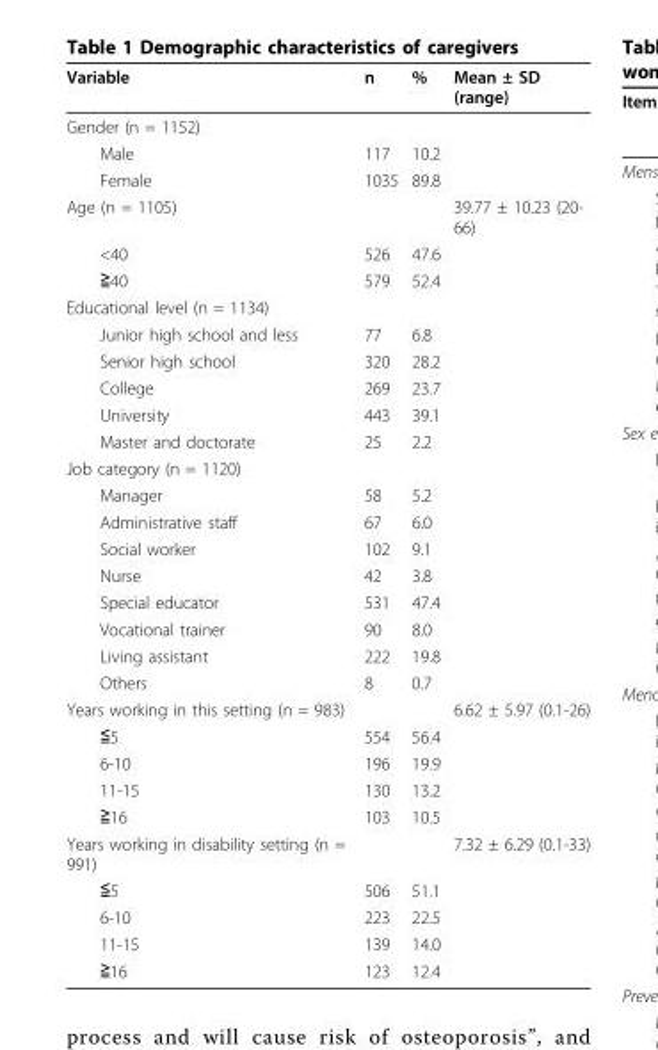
<table><thead><tr><td>Variable</td><td>n</td><td>%</td><td>Mean ± SD (range)</td></tr></thead><tbody><tr><td colspan="4">Gender (n = 1152)</td></tr><tr><td>Male</td><td>117</td><td>10.2</td><td></td></tr><tr><td>Female</td><td>1035</td><td>89.8</td><td></td></tr><tr><td>Age (n = 1105)</td><td></td><td></td><td>39.77 ± 10.23 (20- 66)</td></tr><tr><td>&lt;40</td><td>526</td><td>47.6</td><td></td></tr><tr><td>≧40</td><td>579</td><td>52.4</td><td></td></tr><tr><td colspan="4">Educational level (n = 1134)</td></tr><tr><td>Junior high school and less</td><td>77</td><td>6.8</td><td></td></tr><tr><td>Senior high school</td><td>320</td><td>28.2</td><td></td></tr><tr><td>College</td><td>269</td><td>23.7</td><td></td></tr><tr><td>University</td><td>443</td><td>39.1</td><td></td></tr><tr><td>Master and doctorate</td><td>25</td><td>2.2</td><td></td></tr><tr><td colspan="4">Job category (n = 1120)</td></tr><tr><td>Manager</td><td>58</td><td>5.2</td><td></td></tr><tr><td>Administrative staff</td><td>67</td><td>6.0</td><td></td></tr><tr><td>Social worker</td><td>102</td><td>9.1</td><td></td></tr><tr><td>Nurse</td><td>42</td><td>3.8</td><td></td></tr><tr><td>Special educator</td><td>531</td><td>47.4</td><td></td></tr><tr><td>Vocational trainer</td><td>90</td><td>8.0</td><td></td></tr><tr><td>Living assistant</td><td>222</td><td>19.8</td><td></td></tr><tr><td>Others</td><td>8</td><td>0.7</td><td></td></tr><tr><td>Years working in this setting (n = 983)</td><td></td><td></td><td>6.62 ± 5.97 (0.1-26)</td></tr><tr><td>≦5</td><td>554</td><td>56.4</td><td></td></tr><tr><td>6-10</td><td>196</td><td>19.9</td><td></td></tr><tr><td>11-15</td><td>130</td><td>13.2</td><td></td></tr><tr><td>≧16</td><td>103</td><td>10.5</td><td></td></tr><tr><td>Years working in disability setting (n = 991)</td><td></td><td></td><td>7.32 ± 6.29 (0.1-33)</td></tr><tr><td>≦5</td><td>506</td><td>51.1</td><td></td></tr><tr><td>6-10</td><td>223</td><td>22.5</td><td></td></tr><tr><td>11-15</td><td>139</td><td>14.0</td><td></td></tr><tr><td>≧16</td><td>123</td><td>12.4</td><td></td></tr></tbody></table>